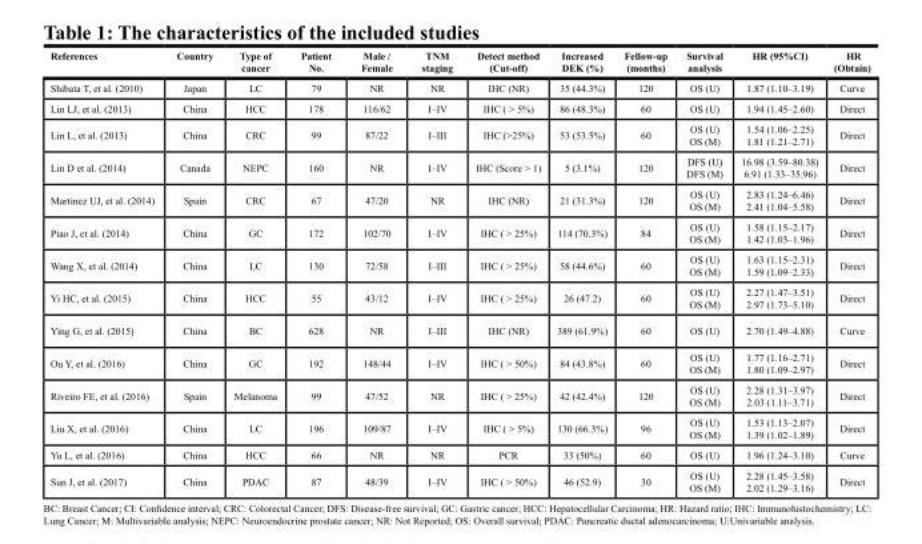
<table><thead><tr><td>References</td><td>Country</td><td>Type of cancer</td><td>Patient No.</td><td>Male / Female</td><td>TNM staging</td><td>Detect method (Cut-off)</td><td>Increased DEK (%)</td><td>Fellow-up (months)</td><td>Survival analysis</td><td>HR (95%CI)</td><td>HR (Obtain)</td></tr></thead><tbody><tr><td>Shibata T, et al. (2010)</td><td>Japan</td><td>LC</td><td>79</td><td>NR</td><td>NR</td><td>IHC (NR)</td><td>35 (44.3%)</td><td>120</td><td>OS (U)</td><td>1.87 (1.10–3.19)</td><td>Curve</td></tr><tr><td>Lin LJ, et al. (2013)</td><td>China</td><td>HCC</td><td>178</td><td>116/62</td><td>I–IV</td><td>IHC ( &gt; 5%)</td><td>86 (48.3%)</td><td>60</td><td>OS (U)</td><td>1.94 (1.45–2.60)</td><td>Direct</td></tr><tr><td>Lin L, et al. (2013)</td><td>China</td><td>CRC</td><td>99</td><td>87/22</td><td>I–III</td><td>IHC (&gt;25%)</td><td>53 (53.5%)</td><td>60</td><td>OS (U) OS (M)</td><td>1.54 (1.06–2.25) 1.81 (1.21–2.71)</td><td>Direct</td></tr><tr><td>Lin D et al. (2014)</td><td>Canada</td><td>NEPC</td><td>160</td><td>NR</td><td>I–IV</td><td>IHC (Score &gt; 1)</td><td>5 (3.1%)</td><td>120</td><td>DFS (U) DFS (M)</td><td>16.98 (3.59–80.38) 6.91 (1.33–35.96)</td><td>Direct</td></tr><tr><td>Martinez UJ, et al. (2014)</td><td>Spain</td><td>CRC</td><td>67</td><td>47/20</td><td>NR</td><td>IHC (NR)</td><td>21 (31.3%)</td><td>120</td><td>OS (U) OS (M)</td><td>2.83 (1.24–6.46) 2.41 (1.04–5.58)</td><td>Direct</td></tr><tr><td>Piao J, et al. (2014)</td><td>China</td><td>GC</td><td>172</td><td>102/70</td><td>I–IV</td><td>IHC ( &gt; 25%)</td><td>114 (70.3%)</td><td>84</td><td>OS (U) OS (M)</td><td>1.58 (1.15–2.17) 1.42 (1.03–1.96)</td><td>Direct</td></tr><tr><td>Wang X, et al. (2014)</td><td>China</td><td>LC</td><td>130</td><td>72/58</td><td>I–III</td><td>IHC ( &gt; 25%)</td><td>58 (44.6%)</td><td>60</td><td>OS (U) OS (M)</td><td>1.63 (1.15–2.31) 1.59 (1.09–2.33)</td><td>Direct</td></tr><tr><td>Yi HC, et al. (2015)</td><td>China</td><td>HCC</td><td>55</td><td>43/12</td><td>I–IV</td><td>IHC ( &gt; 25%)</td><td>26 (47.2)</td><td>60</td><td>OS (U) OS (M)</td><td>2.27 (1.47–3.51) 2.97 (1.73–5.10)</td><td>Direct</td></tr><tr><td>Ying G, et al. (2015)</td><td>China</td><td>BC</td><td>628</td><td>NR</td><td>I–III</td><td>IHC (NR)</td><td>389 (61.9%)</td><td>60</td><td>OS (U)</td><td>2.70 (1.49–4.88)</td><td>Curve</td></tr><tr><td>Ou Y, et al. (2016)</td><td>China</td><td>GC</td><td>192</td><td>148/44</td><td>I–IV</td><td>IHC ( &gt; 50%)</td><td>84 (43.8%)</td><td>60</td><td>OS (U) OS (M)</td><td>1.77 (1.16–2.71) 1.80 (1.09–2.97)</td><td>Direct</td></tr><tr><td>Riveiro FE, et al. (2016)</td><td>Spain</td><td>Melanoma</td><td>99</td><td>47/52</td><td>NR</td><td>IHC ( &gt; 25%)</td><td>42 (42.4%)</td><td>120</td><td>OS (U) OS (M)</td><td>2.28 (1.31–3.97) 2.03 (1.11–3.71)</td><td>Direct</td></tr><tr><td>Liu X, et al. (2016)</td><td>China</td><td>LC</td><td>196</td><td>109/87</td><td>I–IV</td><td>IHC ( &gt; 5%)</td><td>130 (66.3%)</td><td>96</td><td>OS (U) OS (M)</td><td>1.53 (1.13–2.07) 1.39 (1.02–1.89)</td><td>Direct</td></tr><tr><td>Yu L, et al. (2016)</td><td>China</td><td>HCC</td><td>66</td><td>NR</td><td>NR</td><td>PCR</td><td>33 (50%)</td><td>60</td><td>OS (U)</td><td>1.96 (1.24–3.10)</td><td>Curve</td></tr><tr><td>Sun J, et al. (2017)</td><td>China</td><td>PDAC</td><td>87</td><td>48/39</td><td>I–IV</td><td>IHC ( &gt; 50%)</td><td>46 (52.9)</td><td>30</td><td>OS (U) OS (M)</td><td>2.28 (1.45–3.58) 2.02 (1.29–3.16)</td><td>Direct</td></tr></tbody></table>